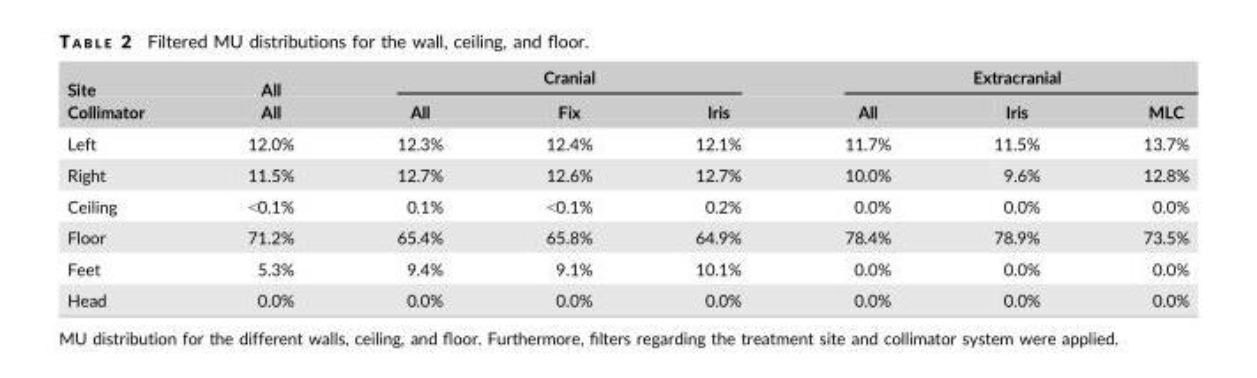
<table><thead><tr><td rowspan="2">Site Collimator</td><td rowspan="2">All All</td><td colspan="3">Cranial</td><td colspan="3">Extracranial</td></tr><tr><td>All</td><td>Fix</td><td>Iris</td><td>All</td><td>Iris</td><td>MLC</td></tr></thead><tbody><tr><td>Left</td><td>12.0%</td><td>12.3%</td><td>12.4%</td><td>12.1%</td><td>11.7%</td><td>11.5%</td><td>13.7%</td></tr><tr><td>Right</td><td>11.5%</td><td>12.7%</td><td>12.6%</td><td>12.7%</td><td>10.0%</td><td>9.6%</td><td>12.8%</td></tr><tr><td>Ceiling</td><td>&lt;0.1%</td><td>0.1%</td><td>&lt;0.1%</td><td>0.2%</td><td>0.0%</td><td>0.0%</td><td>0.0%</td></tr><tr><td>Floor</td><td>71.2%</td><td>65.4%</td><td>65.8%</td><td>64.9%</td><td>78.4%</td><td>78.9%</td><td>73.5%</td></tr><tr><td>Feet</td><td>5.3%</td><td>9.4%</td><td>9.1%</td><td>10.1%</td><td>0.0%</td><td>0.0%</td><td>0.0%</td></tr><tr><td>Head</td><td>0.0%</td><td>0.0%</td><td>0.0%</td><td>0.0%</td><td>0.0%</td><td>0.0%</td><td>0.0%</td></tr></tbody></table>